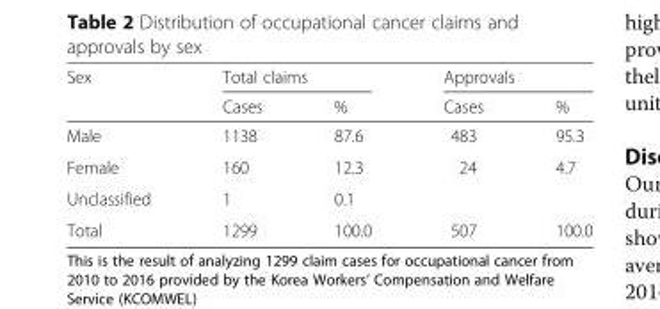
<table><thead><tr><td rowspan="2">Sex</td><td colspan="2">Total claims</td><td colspan="2">Approvals</td></tr><tr><td>Cases</td><td>%</td><td>Cases</td><td>%</td></tr></thead><tbody><tr><td>Male</td><td>1138</td><td>87.6</td><td>483</td><td>95.3</td></tr><tr><td>Female</td><td>160</td><td>12.3</td><td>24</td><td>4.7</td></tr><tr><td>Unclassified</td><td>1</td><td>0.1</td><td></td><td></td></tr><tr><td>Total</td><td>1299</td><td>100.0</td><td>507</td><td>100.0</td></tr></tbody></table>